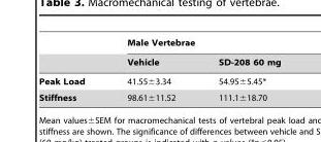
<table><thead><tr><td rowspan="2"></td><td colspan="2">Male Vertebrae</td></tr><tr><td>Vehicle</td><td>SD-208 60 mg</td></tr></thead><tbody><tr><td>Peak Load</td><td>41.55±3.34</td><td>54.95±5.45*</td></tr><tr><td>Stiffness</td><td>98.61±11.52</td><td>111.1±18.70</td></tr></tbody></table>